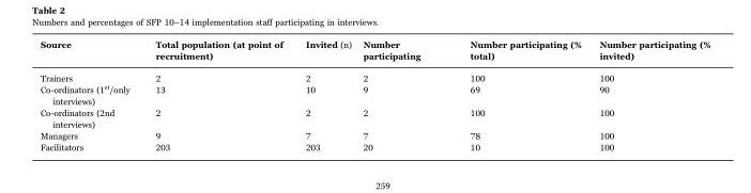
<table><thead><tr><td>Source</td><td>Total population (at point of recruitment)</td><td>Invited (n)</td><td>Number participating</td><td>Number participating (% total)</td><td>Number participating (% invited)</td></tr></thead><tbody><tr><td>Trainers</td><td>2</td><td>2</td><td>2</td><td>100</td><td>100</td></tr><tr><td>Co-ordinators (1<sup>st</sup>/only interviews)</td><td>13</td><td>10</td><td>9</td><td>69</td><td>90</td></tr><tr><td>Co-ordinators (2nd interviews)</td><td>2</td><td>2</td><td>2</td><td>100</td><td>100</td></tr><tr><td>Managers</td><td>9</td><td>7</td><td>7</td><td>78</td><td>100</td></tr><tr><td>Facilitators</td><td>203</td><td>203</td><td>20</td><td>10</td><td>100</td></tr></tbody></table>